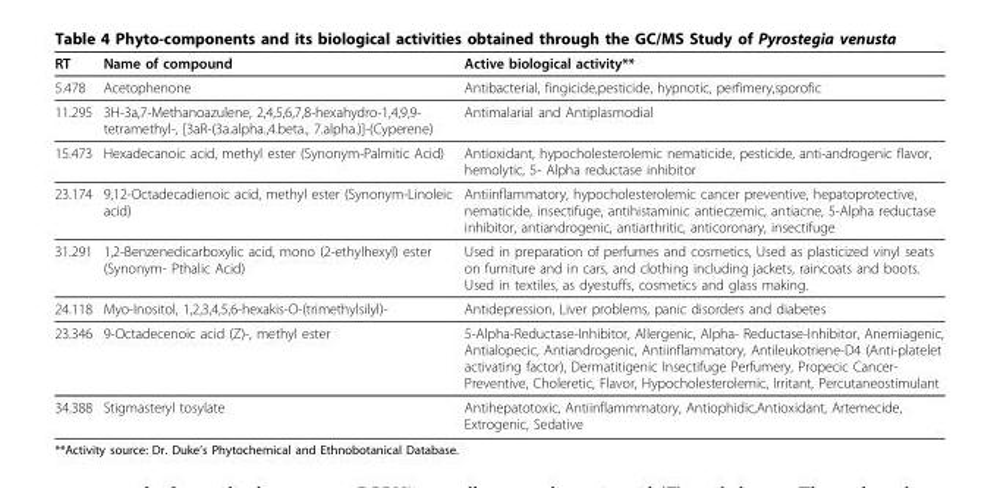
<table><thead><tr><td>RT</td><td>Name of compound</td><td>Active biological activity**</td></tr></thead><tbody><tr><td>5.478</td><td>Acetophenone</td><td>Antibacterial, fingicide,pesticide, hypnotic, perfimery,sporofic</td></tr><tr><td>11.295</td><td>3H-3a,7-Methanoazulene, 2,4,5,6,7,8-hexahydro-1,4,9,9- tetramethyl-, [3aR-(3a.alpha.,4.beta., 7.alpha.)]-(Cyperene)</td><td>Antimalarial and Antiplasmodial</td></tr><tr><td>15.473</td><td>Hexadecanoic acid, methyl ester (Synonym-Palmitic Acid)</td><td>Antioxidant, hypocholesterolemic nematicide, pesticide, anti-androgenic flavor, hemolytic, 5- Alpha reductase inhibitor</td></tr><tr><td>23.174</td><td>9,12-Octadecadienoic acid, methyl ester (Synonym-Linoleic acid)</td><td>Antiinflammatory, hypocholesterolemic cancer preventive, hepatoprotective, nematicide, insectifuge, antihistaminic antieczemic, antiacne, 5-Alpha reductase inhibitor, antiandrogenic, antiarthritic, anticoronary, insectifuge</td></tr><tr><td>31.291</td><td>1,2-Benzenedicarboxylic acid, mono (2-ethylhexyl) ester (Synonym- Pthalic Acid)</td><td>Used in preparation of perfumes and cosmetics, Used as plasticized vinyl seats on furniture and in cars, and clothing including jackets, raincoats and boots. Used in textiles, as dyestuffs, cosmetics and glass making.</td></tr><tr><td>24.118</td><td>Myo-Inositol, 1,2,3,4,5,6-hexakis-O-(trimethylsilyl)-</td><td>Antidepression, Liver problems, panic disorders and diabetes</td></tr><tr><td>23.346</td><td>9-Octadecenoic acid (Z)-, methyl ester</td><td>5-Alpha-Reductase-Inhibitor, Allergenic, Alpha- Reductase-Inhibitor, Anemiagenic, Antialopecic, Antiandrogenic, Antiinflammatory, Antileukotriene-D4 (Anti-platelet activating factor), Dermatitigenic Insectifuge Perfumery, Propecic Cancer- Preventive, Choleretic, Flavor, Hypocholesterolemic, Irritant, Percutaneostimulant</td></tr><tr><td>34.388</td><td>Stigmasteryl tosylate</td><td>Antihepatotoxic, Antiinflammmatory, Antiophidic,Antioxidant, Artemecide, Extrogenic, Sedative</td></tr></tbody></table>